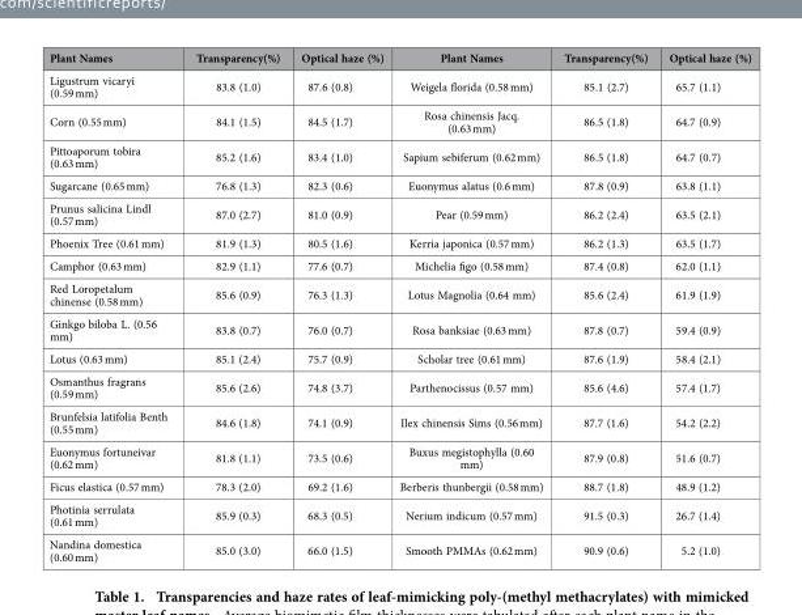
<table><thead><tr><td>Plant Names</td><td>Transparency(%)</td><td>Optical haze (%)</td><td>Plant Names</td><td>Transparency(%)</td><td>Optical haze (%)</td></tr></thead><tbody><tr><td>Ligustrum vicaryi (0.59 mm)</td><td>83.8 (1.0)</td><td>87.6 (0.8)</td><td>Weigela florida (0.58 mm)</td><td>85.1 (2.7)</td><td>65.7 (1.1)</td></tr><tr><td>Corn (0.55 mm)</td><td>84.1 (1.5)</td><td>84.5 (1.7)</td><td>Rosa chinensis Jacq. (0.63 mm)</td><td>86.5 (1.8)</td><td>64.7 (0.9)</td></tr><tr><td>Pittoaporum tobira (0.63 mm)</td><td>85.2 (1.6)</td><td>83.4 (1.0)</td><td>Sapium sebiferum (0.62 mm)</td><td>86.5 (1.8)</td><td>64.7 (0.7)</td></tr><tr><td>Sugarcane (0.65 mm)</td><td>76.8 (1.3)</td><td>82.3 (0.6)</td><td>Euonymus alatus (0.6 mm)</td><td>87.8 (0.9)</td><td>63.8 (1.1)</td></tr><tr><td>Prunus salicina Lindl (0.57 mm)</td><td>87.0 (2.7)</td><td>81.0 (0.9)</td><td>Pear (0.59 mm)</td><td>86.2 (2.4)</td><td>63.5 (2.1)</td></tr><tr><td>Phoenix Tree (0.61 mm)</td><td>81.9 (1.3)</td><td>80.5 (1.6)</td><td>Kerria japonica (0.57 mm)</td><td>86.2 (1.3)</td><td>63.5 (1.7)</td></tr><tr><td>Camphor (0.63 mm)</td><td>82.9 (1.1)</td><td>77.6 (0.7)</td><td>Michelia figo (0.58 mm)</td><td>87.4 (0.8)</td><td>62.0 (1.1)</td></tr><tr><td>Red Loropetalum chinense (0.58 mm)</td><td>85.6 (0.9)</td><td>76.3 (1.3)</td><td>Lotus Magnolia (0.64 mm)</td><td>85.6 (2.4)</td><td>61.9 (1.9)</td></tr><tr><td>Ginkgo biloba L. (0.56 mm)</td><td>83.8 (0.7)</td><td>76.0 (0.7)</td><td>Rosa banksiae (0.63 mm)</td><td>87.8 (0.7)</td><td>59.4 (0.9)</td></tr><tr><td>Lotus (0.63 mm)</td><td>85.1 (2.4)</td><td>75.7 (0.9)</td><td>Scholar tree (0.61 mm)</td><td>87.6 (1.9)</td><td>58.4 (2.1)</td></tr><tr><td>Osmanthus fragrans (0.59 mm)</td><td>85.6 (2.6)</td><td>74.8 (3.7)</td><td>Parthenocissus (0.57 mm)</td><td>85.6 (4.6)</td><td>57.4 (1.7)</td></tr><tr><td>Brunfelsia latifolia Benth (0.55 mm)</td><td>84.6 (1.8)</td><td>74.1 (0.9)</td><td>Ilex chinensis Sims (0.56 mm)</td><td>87.7 (1.6)</td><td>54.2 (2.2)</td></tr><tr><td>Euonymus fortuneivar (0.62 mm)</td><td>81.8 (1.1)</td><td>73.5 (0.6)</td><td>Buxus megistophylla (0.60 mm)</td><td>87.9 (0.8)</td><td>51.6 (0.7)</td></tr><tr><td>Ficus elastica (0.57 mm)</td><td>78.3 (2.0)</td><td>69.2 (1.6)</td><td>Berberis thunbergii (0.58 mm)</td><td>88.7 (1.8)</td><td>48.9 (1.2)</td></tr><tr><td>Photinia serrulata (0.61 mm)</td><td>85.9 (0.3)</td><td>68.3 (0.5)</td><td>Nerium indicum (0.57 mm)</td><td>91.5 (0.3)</td><td>26.7 (1.4)</td></tr><tr><td>Nandina domestica (0.60 mm)</td><td>85.0 (3.0)</td><td>66.0 (1.5)</td><td>Smooth PMMAs (0.62 mm)</td><td>90.9 (0.6)</td><td>5.2 (1.0)</td></tr></tbody></table>